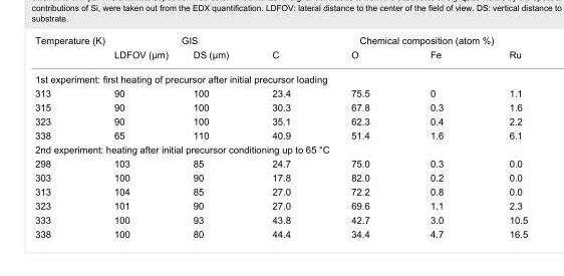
<table><tbody><tr><td rowspan="2">Temperature (K)</td><td colspan="2">GIS</td><td colspan="4">Chemical composition (atom %)</td></tr><tr><td>LDFOV (µm)</td><td>DS (µm)</td><td>C</td><td>O</td><td>Fe</td><td>Ru</td></tr><tr><td colspan="7">1st experiment: first heating of precursor after initial precursor loading</td></tr><tr><td>313</td><td>90</td><td>100</td><td>23.4</td><td>75.5</td><td>0</td><td>1.1</td></tr><tr><td>315</td><td>90</td><td>100</td><td>30.3</td><td>67.8</td><td>0.3</td><td>1.6</td></tr><tr><td>323</td><td>90</td><td>100</td><td>35.1</td><td>62.3</td><td>0.4</td><td>2.2</td></tr><tr><td>338</td><td>65</td><td>110</td><td>40.9</td><td>51.4</td><td>1.6</td><td>6.1</td></tr><tr><td colspan="7">2nd experiment: heating after initial precursor conditioning up to 65 °C</td></tr><tr><td>298</td><td>103</td><td>85</td><td>24.7</td><td>75.0</td><td>0.3</td><td>0.0</td></tr><tr><td>303</td><td>100</td><td>90</td><td>17.8</td><td>82.0</td><td>0.2</td><td>0.0</td></tr><tr><td>313</td><td>104</td><td>85</td><td>27.0</td><td>72.2</td><td>0.8</td><td>0.0</td></tr><tr><td>323</td><td>101</td><td>90</td><td>27.0</td><td>69.6</td><td>1.1</td><td>2.3</td></tr><tr><td>333</td><td>100</td><td>93</td><td>43.8</td><td>42.7</td><td>3.0</td><td>10.5</td></tr><tr><td>338</td><td>100</td><td>80</td><td>44.4</td><td>34.4</td><td>4.7</td><td>16.5</td></tr></tbody></table>